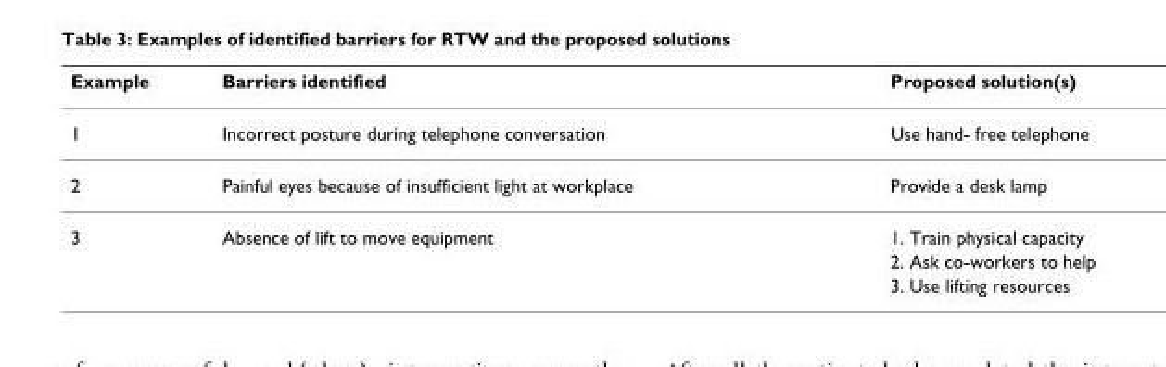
<table><thead><tr><td>Example</td><td>Barriers identified</td><td>Proposed solution(s)</td></tr></thead><tbody><tr><td>1</td><td>Incorrect posture during telephone conversation</td><td>Use hand- free telephone</td></tr><tr><td>2</td><td>Painful eyes because of insufficient light at workplace</td><td>Provide a desk lamp</td></tr><tr><td rowspan="3">3</td><td>Absence of lift to move equipment</td><td>1. Train physical capacity</td></tr><tr><td></td><td>2. Ask co-workers to help</td></tr><tr><td></td><td>3. Use lifting resources</td></tr></tbody></table>